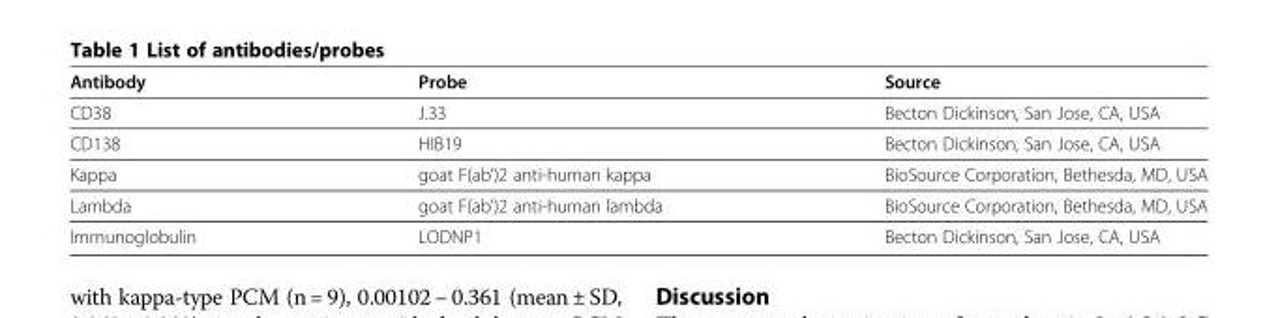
<table><thead><tr><td>Antibody</td><td>Probe</td><td>Source</td></tr></thead><tbody><tr><td>CD38</td><td>J.33</td><td>Becton Dickinson, San Jose, CA, USA</td></tr><tr><td>CD138</td><td>HIB19</td><td>Becton Dickinson, San Jose, CA, USA</td></tr><tr><td>Kappa</td><td>goat F(ab’)2 anti-human kappa</td><td>BioSource Corporation, Bethesda, MD, USA</td></tr><tr><td>Lambda</td><td>goat F(ab’)2 anti-human lambda</td><td>BioSource Corporation, Bethesda, MD, USA</td></tr><tr><td>Immunoglobulin</td><td>LODNP1</td><td>Becton Dickinson, San Jose, CA, USA</td></tr></tbody></table>